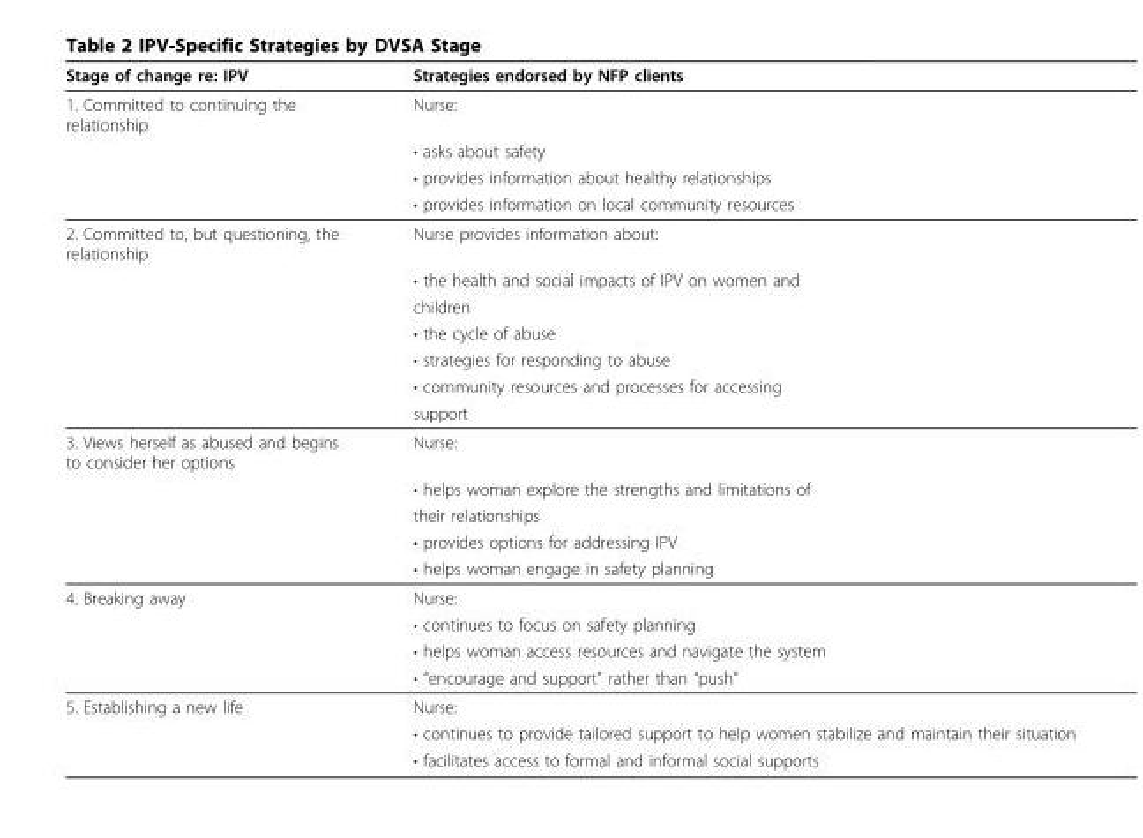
<table><thead><tr><td>Stage of change re: IPV</td><td>Strategies endorsed by NFP clients</td></tr></thead><tbody><tr><td rowspan="4">1. Committed to continuing the relationship</td><td>Nurse:</td></tr><tr><td>• asks about safety</td></tr><tr><td>• provides information about healthy relationships</td></tr><tr><td>• provides information on local community resources</td></tr><tr><td rowspan="7">2. Committed to, but questioning, the relationship</td><td>Nurse provides information about:</td></tr><tr><td>• the health and social impacts of IPV on women and</td></tr><tr><td>children</td></tr><tr><td>• the cycle of abuse</td></tr><tr><td>• strategies for responding to abuse</td></tr><tr><td>• community resources and processes for accessing</td></tr><tr><td>support</td></tr><tr><td rowspan="5">3. Views herself as abused and begins to consider her options</td><td>Nurse:</td></tr><tr><td>• helps woman explore the strengths and limitations of</td></tr><tr><td>their relationships</td></tr><tr><td>• provides options for addressing IPV</td></tr><tr><td>• helps woman engage in safety planning</td></tr><tr><td rowspan="4">4. Breaking away</td><td>Nurse:</td></tr><tr><td>• continues to focus on safety planning</td></tr><tr><td>• helps woman access resources and navigate the system</td></tr><tr><td>• “encourage and support” rather than “push”</td></tr><tr><td rowspan="3">5. Establishing a new life</td><td>Nurse:</td></tr><tr><td>• continues to provide tailored support to help women stabilize and maintain their situation</td></tr><tr><td>• facilitates access to formal and informal social supports</td></tr></tbody></table>